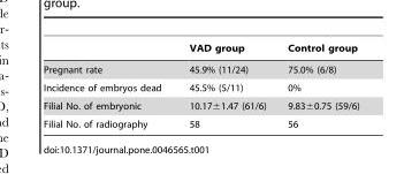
<table><thead><tr><td></td><td>VAD group</td><td>Control group</td></tr></thead><tbody><tr><td>Pregnant rate</td><td>45.9% (11/24)</td><td>75.0% (6/8)</td></tr><tr><td>Incidence of embryos dead</td><td>45.5% (5/11)</td><td>0%</td></tr><tr><td>Filial No. of embryonic</td><td>10.17±1.47 (61/6)</td><td>9.83±0.75 (59/6)</td></tr><tr><td>Filial No. of radiography</td><td>58</td><td>56</td></tr></tbody></table>